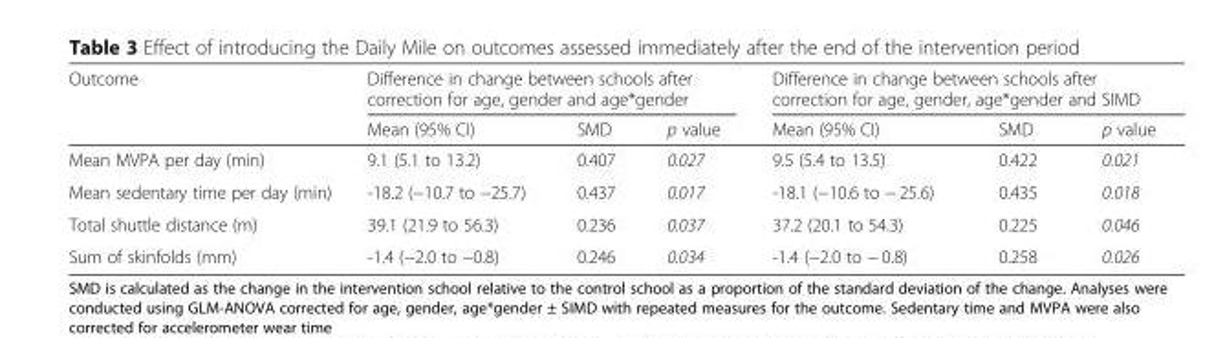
<table><thead><tr><td rowspan="2">Outcome</td><td colspan="3">Difference in change between schools after correction for age, gender and age*gender</td><td colspan="3">Difference in change between schools after correction for age, gender, age*gender and SIMD</td></tr><tr><td>Mean (95% CI)</td><td>SMD</td><td>p value</td><td>Mean (95% CI)</td><td>SMD</td><td>p value</td></tr></thead><tbody><tr><td>Mean MVPA per day (min)</td><td>9.1 (5.1 to 13.2)</td><td>0.407</td><td>0.027</td><td>9.5 (5.4 to 13.5)</td><td>0.422</td><td>0.021</td></tr><tr><td>Mean sedentary time per day (min)</td><td>-18.2 (−10.7 to −25.7)</td><td>0.437</td><td>0.017</td><td>-18.1 (−10.6 to − 25.6)</td><td>0.435</td><td>0.018</td></tr><tr><td>Total shuttle distance (m)</td><td>39.1 (21.9 to 56.3)</td><td>0.236</td><td>0.037</td><td>37.2 (20.1 to 54.3)</td><td>0.225</td><td>0.046</td></tr><tr><td>Sum of skinfolds (mm)</td><td>-1.4 (−2.0 to −0.8)</td><td>0.246</td><td>0.034</td><td>-1.4 (−2.0 to − 0.8)</td><td>0.258</td><td>0.026</td></tr></tbody></table>